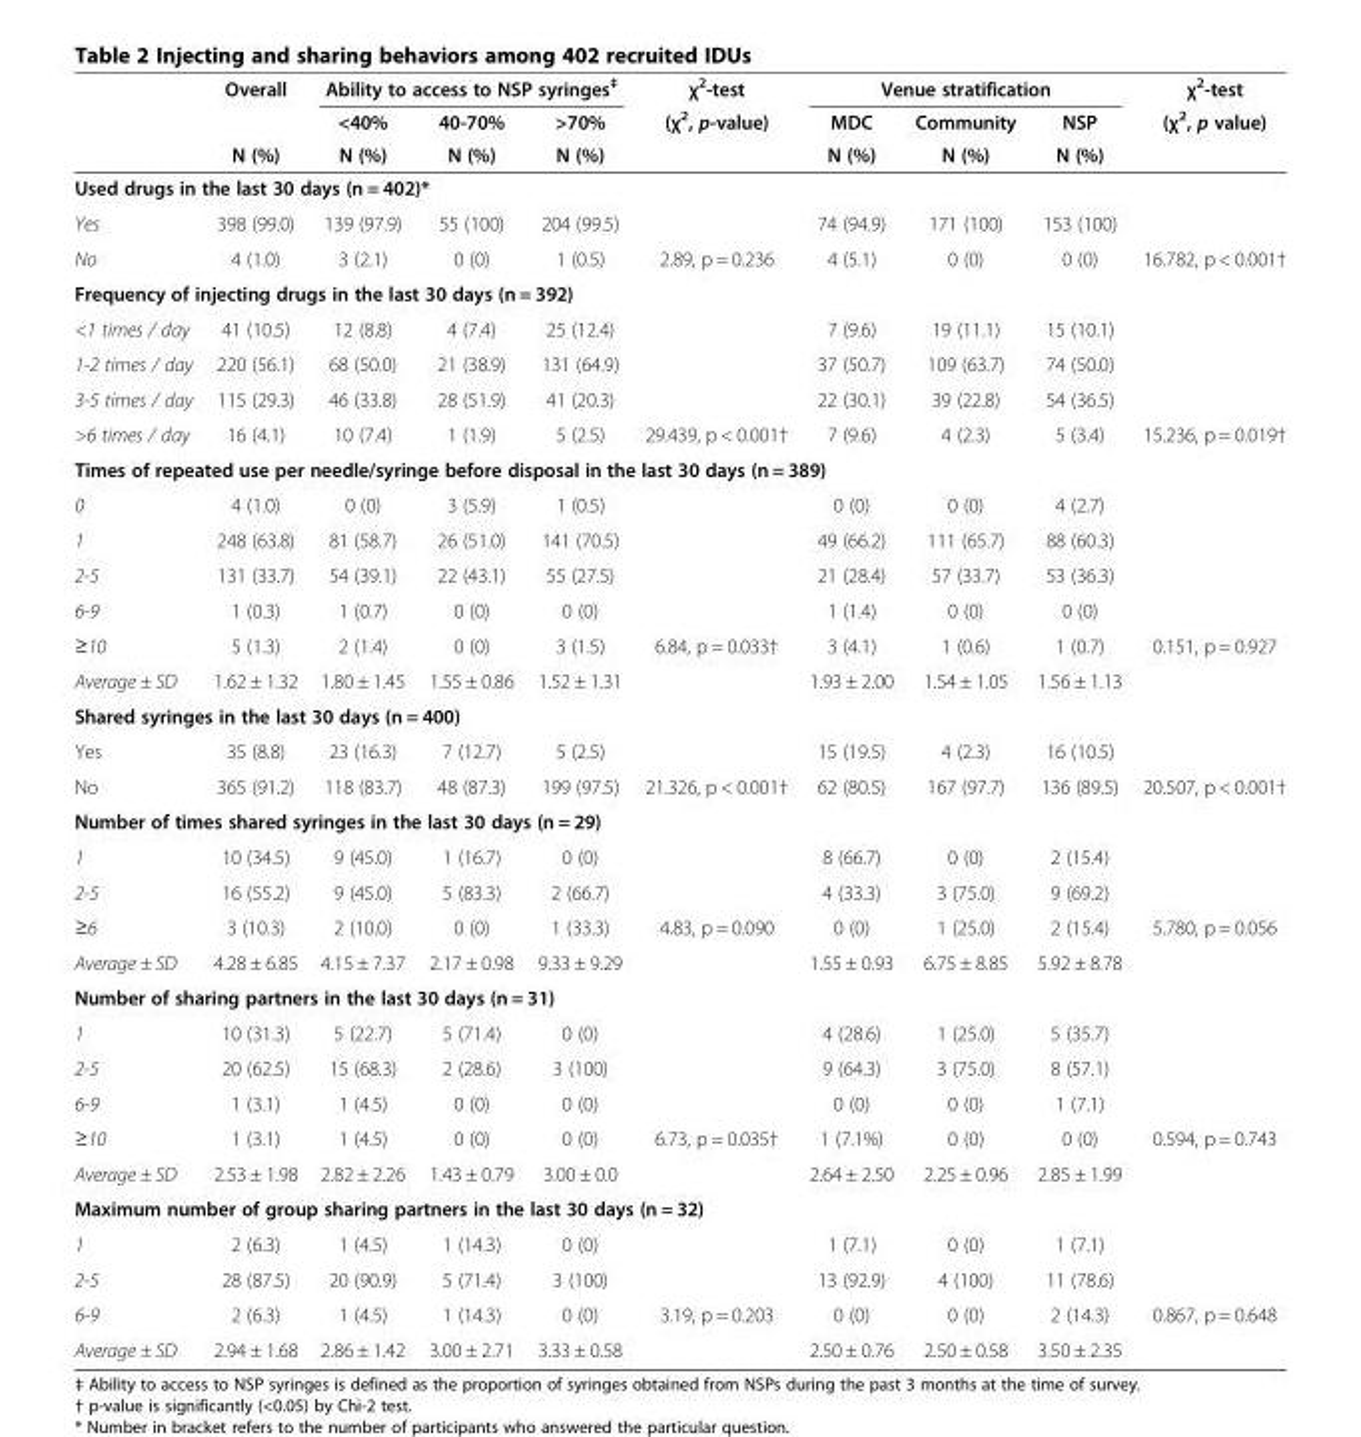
<table><thead><tr><td rowspan="3"></td><td rowspan="3">Overall N (%)</td><td colspan="3">Ability to access to NSP syringes<sup>‡</sup></td><td rowspan="3">χ<sup>2</sup>-test (χ<sup>2</sup>, p-value)</td><td colspan="3">Venue stratification</td><td rowspan="3">χ<sup>2</sup>-test (χ<sup>2</sup>, p value)</td></tr><tr><td rowspan="2">&lt;40% N (%)</td><td rowspan="2">40-70% N (%)</td><td rowspan="2">&gt;70% N (%)</td><td rowspan="2">MDC N (%)</td><td rowspan="2">Community N (%)</td><td rowspan="2">NSP N (%)</td></tr><tr></tr></thead><tbody><tr><td colspan="10">Used drugs in the last 30 days (n = 402)*</td></tr><tr><td>Yes</td><td>398 (99.0)</td><td>139 (97.9)</td><td>55 (100)</td><td>204 (99.5)</td><td></td><td>74 (94.9)</td><td>171 (100)</td><td>153 (100)</td><td></td></tr><tr><td>No</td><td>4 (1.0)</td><td>3 (2.1)</td><td>0 (0)</td><td>1 (0.5)</td><td>2.89, p = 0.236</td><td>4 (5.1)</td><td>0 (0)</td><td>0 (0)</td><td>16.782, p &lt; 0.001†</td></tr><tr><td colspan="10">Frequency of injecting drugs in the last 30 days (n = 392)</td></tr><tr><td>&lt;1 times / day</td><td>41 (10.5)</td><td>12 (8.8)</td><td>4 (7.4)</td><td>25 (12.4)</td><td></td><td>7 (9.6)</td><td>19 (11.1)</td><td>15 (10.1)</td><td></td></tr><tr><td>1-2 times / day</td><td>220 (56.1)</td><td>68 (50.0)</td><td>21 (38.9)</td><td>131 (64.9)</td><td></td><td>37 (50.7)</td><td>109 (63.7)</td><td>74 (50.0)</td><td></td></tr><tr><td>3-5 times / day</td><td>115 (29.3)</td><td>46 (33.8)</td><td>28 (51.9)</td><td>41 (20.3)</td><td></td><td>22 (30.1)</td><td>39 (22.8)</td><td>54 (36.5)</td><td></td></tr><tr><td>&gt;6 times / day</td><td>16 (4.1)</td><td>10 (7.4)</td><td>1 (1.9)</td><td>5 (2.5)</td><td>29.439, p &lt; 0.001†</td><td>7 (9.6)</td><td>4 (2.3)</td><td>5 (3.4)</td><td>15.236, p = 0.019†</td></tr><tr><td colspan="10">Times of repeated use per needle/syringe before disposal in the last 30 days (n = 389)</td></tr><tr><td>0</td><td>4 (1.0)</td><td>0 (0)</td><td>3 (5.9)</td><td>1 (0.5)</td><td></td><td>0 (0)</td><td>0 (0)</td><td>4 (2.7)</td><td></td></tr><tr><td>1</td><td>248 (63.8)</td><td>81 (58.7)</td><td>26 (51.0)</td><td>141 (70.5)</td><td></td><td>49 (66.2)</td><td>111 (65.7)</td><td>88 (60.3)</td><td></td></tr><tr><td>2-5</td><td>131 (33.7)</td><td>54 (39.1)</td><td>22 (43.1)</td><td>55 (27.5)</td><td></td><td>21 (28.4)</td><td>57 (33.7)</td><td>53 (36.3)</td><td></td></tr><tr><td>6-9</td><td>1 (0.3)</td><td>1 (0.7)</td><td>0 (0)</td><td>0 (0)</td><td></td><td>1 (1.4)</td><td>0 (0)</td><td>0 (0)</td><td></td></tr><tr><td>≥10</td><td>5 (1.3)</td><td>2 (1.4)</td><td>0 (0)</td><td>3 (1.5)</td><td>6.84, p = 0.033†</td><td>3 (4.1)</td><td>1 (0.6)</td><td>1 (0.7)</td><td>0.151, p = 0.927</td></tr><tr><td>Average ± SD</td><td>1.62 ± 1.32</td><td>1.80 ± 1.45</td><td>1.55 ± 0.86</td><td>1.52 ± 1.31</td><td></td><td>1.93 ± 2.00</td><td>1.54 ± 1.05</td><td>1.56 ± 1.13</td><td></td></tr><tr><td colspan="10">Shared syringes in the last 30 days (n = 400)</td></tr><tr><td>Yes</td><td>35 (8.8)</td><td>23 (16.3)</td><td>7 (12.7)</td><td>5 (2.5)</td><td></td><td>15 (19.5)</td><td>4 (2.3)</td><td>16 (10.5)</td><td></td></tr><tr><td>No</td><td>365 (91.2)</td><td>118 (83.7)</td><td>48 (87.3)</td><td>199 (97.5)</td><td>21.326, p &lt; 0.001†</td><td>62 (80.5)</td><td>167 (97.7)</td><td>136 (89.5)</td><td>20.507, p &lt; 0.001†</td></tr><tr><td colspan="10">Number of times shared syringes in the last 30 days (n = 29)</td></tr><tr><td>1</td><td>10 (34.5)</td><td>9 (45.0)</td><td>1 (16.7)</td><td>0 (0)</td><td></td><td>8 (66.7)</td><td>0 (0)</td><td>2 (15.4)</td><td></td></tr><tr><td>2-5</td><td>16 (55.2)</td><td>9 (45.0)</td><td>5 (83.3)</td><td>2 (66.7)</td><td></td><td>4 (33.3)</td><td>3 (75.0)</td><td>9 (69.2)</td><td></td></tr><tr><td>≥6</td><td>3 (10.3)</td><td>2 (10.0)</td><td>0 (0)</td><td>1 (33.3)</td><td>4.83, p = 0.090</td><td>0 (0)</td><td>1 (25.0)</td><td>2 (15.4)</td><td>5.780, p = 0.056</td></tr><tr><td>Average ± SD</td><td>4.28 ± 6.85</td><td>4.15 ± 7.37</td><td>2.17 ± 0.98</td><td>9.33 ± 9.29</td><td></td><td>1.55 ± 0.93</td><td>6.75 ± 8.85</td><td>5.92 ± 8.78</td><td></td></tr><tr><td colspan="10">Number of sharing partners in the last 30 days (n = 31)</td></tr><tr><td>1</td><td>10 (31.3)</td><td>5 (22.7)</td><td>5 (71.4)</td><td>0 (0)</td><td></td><td>4 (28.6)</td><td>1 (25.0)</td><td>5 (35.7)</td><td></td></tr><tr><td>2-5</td><td>20 (62.5)</td><td>15 (68.3)</td><td>2 (28.6)</td><td>3 (100)</td><td></td><td>9 (64.3)</td><td>3 (75.0)</td><td>8 (57.1)</td><td></td></tr><tr><td>6-9</td><td>1 (3.1)</td><td>1 (4.5)</td><td>0 (0)</td><td>0 (0)</td><td></td><td>0 (0)</td><td>0 (0)</td><td>1 (7.1)</td><td></td></tr><tr><td>≥10</td><td>1 (3.1)</td><td>1 (4.5)</td><td>0 (0)</td><td>0 (0)</td><td>6.73, p = 0.035†</td><td>1 (7.1%)</td><td>0 (0)</td><td>0 (0)</td><td>0.594, p = 0.743</td></tr><tr><td>Average ± SD</td><td>2.53 ± 1.98</td><td>2.82 ± 2.26</td><td>1.43 ± 0.79</td><td>3.00 ± 0.0</td><td></td><td>2.64 ± 2.50</td><td>2.25 ± 0.96</td><td>2.85 ± 1.99</td><td></td></tr><tr><td colspan="10">Maximum number of group sharing partners in the last 30 days (n = 32)</td></tr><tr><td>1</td><td>2 (6.3)</td><td>1 (4.5)</td><td>1 (14.3)</td><td>0 (0)</td><td></td><td>1 (7.1)</td><td>0 (0)</td><td>1 (7.1)</td><td></td></tr><tr><td>2-5</td><td>28 (87.5)</td><td>20 (90.9)</td><td>5 (71.4)</td><td>3 (100)</td><td></td><td>13 (92.9)</td><td>4 (100)</td><td>11 (78.6)</td><td></td></tr><tr><td>6-9</td><td>2 (6.3)</td><td>1 (4.5)</td><td>1 (14.3)</td><td>0 (0)</td><td>3.19, p = 0.203</td><td>0 (0)</td><td>0 (0)</td><td>2 (14.3)</td><td>0.867, p = 0.648</td></tr><tr><td>Average ± SD</td><td>2.94 ± 1.68</td><td>2.86 ± 1.42</td><td>3.00 ± 2.71</td><td>3.33 ± 0.58</td><td></td><td>2.50 ± 0.76</td><td>2.50 ± 0.58</td><td>3.50 ± 2.35</td><td></td></tr></tbody></table>